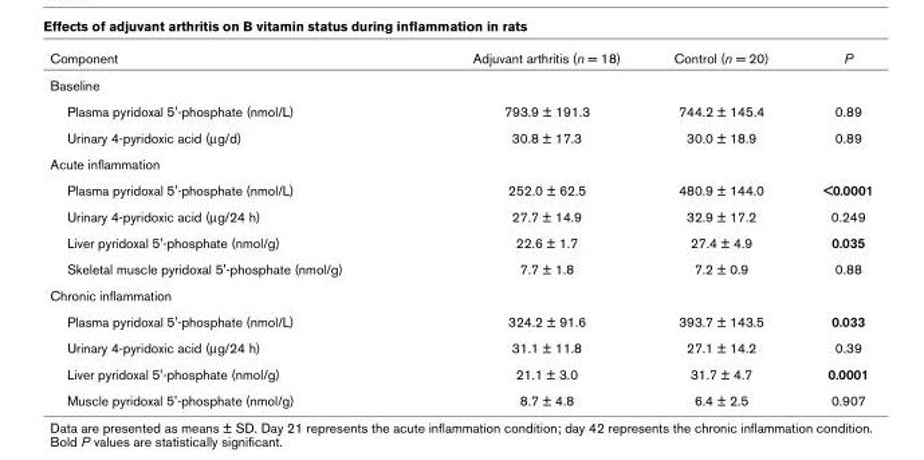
<table><thead><tr><td>Component</td><td>Adjuvant arthritis (n = 18)</td><td>Control (n = 20)</td><td>P</td></tr></thead><tbody><tr><td colspan="4">Baseline</td></tr><tr><td>Plasma pyridoxal 5&#x27;-phosphate (nmol/L)</td><td>793.9 ± 191.3</td><td>744.2 ± 145.4</td><td>0.89</td></tr><tr><td>Urinary 4-pyridoxic acid (µg/d)</td><td>30.8 ± 17.3</td><td>30.0 ± 18.9</td><td>0.89</td></tr><tr><td colspan="4">Acute inflammation</td></tr><tr><td>Plasma pyridoxal 5&#x27;-phosphate (nmol/L)</td><td>252.0 ± 62.5</td><td>480.9 ± 144.0</td><td>&lt;0.0001</td></tr><tr><td>Urinary 4-pyridoxic acid (µg/24 h)</td><td>27.7 ± 14.9</td><td>32.9 ± 17.2</td><td>0.249</td></tr><tr><td>Liver pyridoxal 5&#x27;-phosphate (nmol/g)</td><td>22.6 ± 1.7</td><td>27.4 ± 4.9</td><td>0.035</td></tr><tr><td>Skeletal muscle pyridoxal 5&#x27;-phosphate (nmol/g)</td><td>7.7 ± 1.8</td><td>7.2 ± 0.9</td><td>0.88</td></tr><tr><td colspan="4">Chronic inflammation</td></tr><tr><td>Plasma pyridoxal 5&#x27;-phosphate (nmol/L)</td><td>324.2 ± 91.6</td><td>393.7 ± 143.5</td><td>0.033</td></tr><tr><td>Urinary 4-pyridoxic acid (µg/24 h)</td><td>31.1 ± 11.8</td><td>27.1 ± 14.2</td><td>0.39</td></tr><tr><td>Liver pyridoxal 5&#x27;-phosphate (nmol/g)</td><td>21.1 ± 3.0</td><td>31.7 ± 4.7</td><td>0.0001</td></tr><tr><td>Muscle pyridoxal 5&#x27;-phosphate (nmol/g)</td><td>8.7 ± 4.8</td><td>6.4 ± 2.5</td><td>0.907</td></tr></tbody></table>